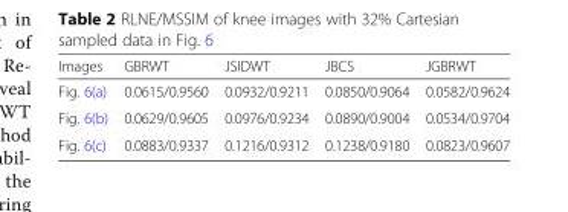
<table><thead><tr><td>Images</td><td>GBRWT</td><td>JSIDWT</td><td>JBCS</td><td>JGBRWT</td></tr></thead><tbody><tr><td>Fig. 6(a)</td><td>0.0615/0.9560</td><td>0.0932/0.9211</td><td>0.0850/0.9064</td><td>0.0582/0.9624</td></tr><tr><td>Fig. 6(b)</td><td>0.0629/0.9605</td><td>0.0976/0.9234</td><td>0.0890/0.9004</td><td>0.0534/0.9704</td></tr><tr><td>Fig. 6(c)</td><td>0.0883/0.9337</td><td>0.1216/0.9312</td><td>0.1238/0.9180</td><td>0.0823/0.9607</td></tr></tbody></table>